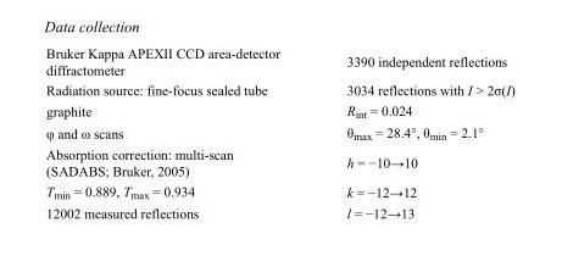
<table><tbody><tr><td>Bruker Kappa APEXII CCD area-detector diffractometer</td><td>3390 independent reflections</td></tr><tr><td>Radiation source: fine-focus sealed tube</td><td>3034 reflections with I &gt; 2σ(I)</td></tr><tr><td>graphite</td><td>R<sub>int</sub> = 0.024</td></tr><tr><td>φ and ω scans</td><td>θ<sub>max</sub> = 28.4°, θ<sub>min</sub> = 2.1°</td></tr><tr><td>Absorption correction: multi-scan (SADABS; Bruker, 2005)</td><td>h = −10→10</td></tr><tr><td>T<sub>min</sub> = 0.889, T<sub>max</sub> = 0.934</td><td>k = −12→12</td></tr><tr><td>12002 measured reflections</td><td>l = −12→13</td></tr></tbody></table>